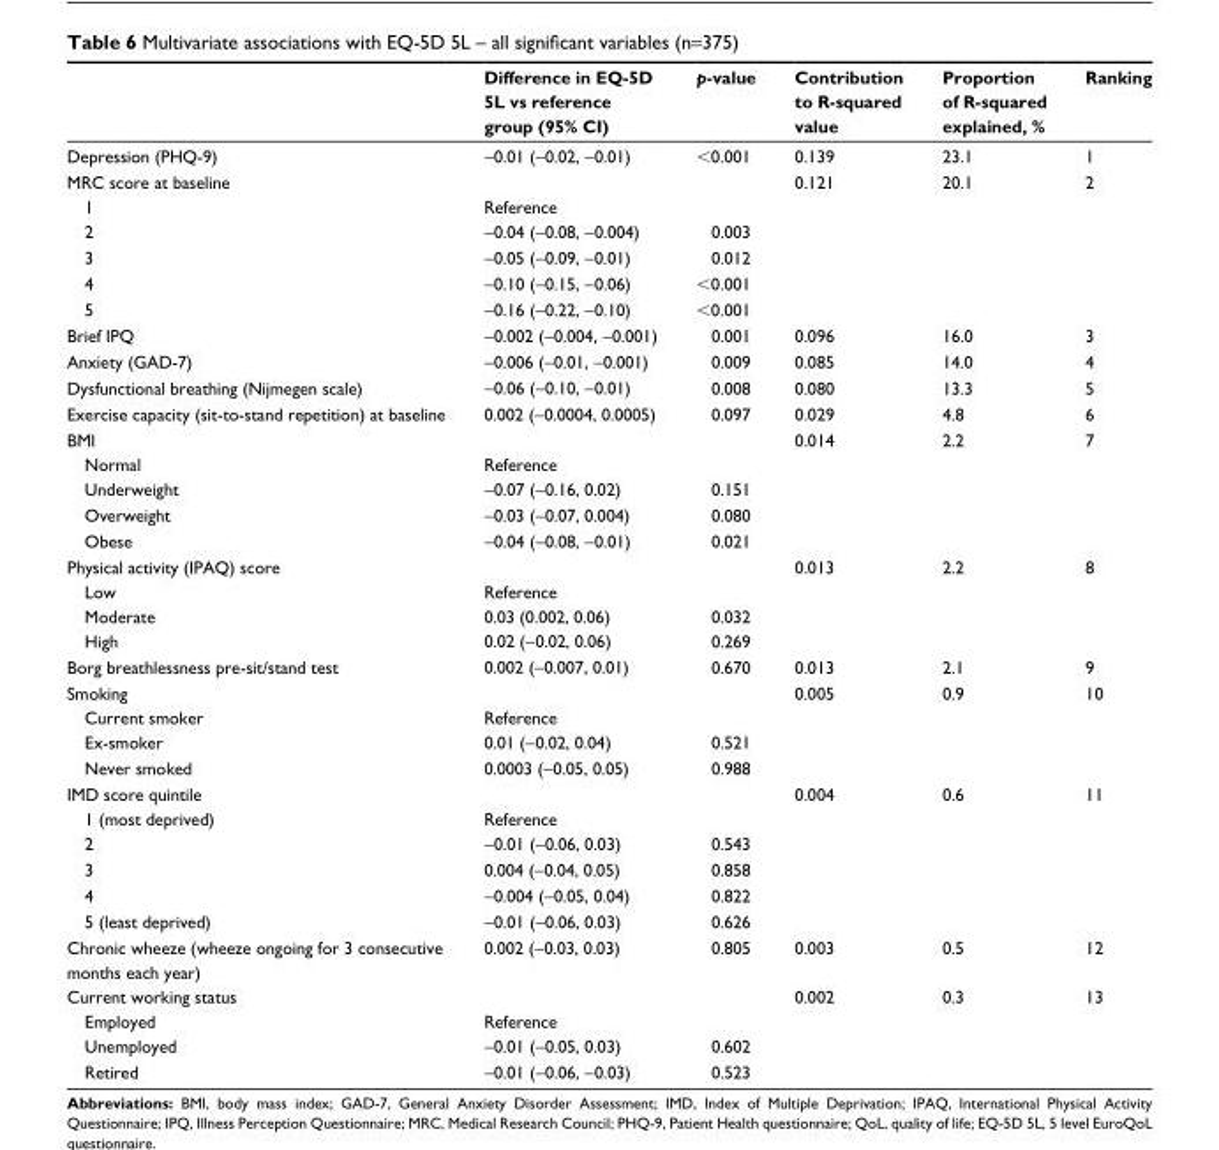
<table><thead><tr><td></td><td>Difference in EQ-5D 5L vs reference group (95% CI)</td><td>p-value</td><td>Contribution to R-squared value</td><td>Proportion of R-squared explained, %</td><td>Ranking</td></tr></thead><tbody><tr><td>Depression (PhQ-9)</td><td>−0.01 (−0.02, −0.01)</td><td>&lt;0.001</td><td>0.139</td><td>23.1</td><td>1</td></tr><tr><td>MrC score at baseline</td><td></td><td></td><td>0.121</td><td>20.1</td><td>2</td></tr><tr><td>1</td><td>reference</td><td></td><td></td><td></td><td></td></tr><tr><td>2</td><td>−0.04 (−0.08, −0.004)</td><td>0.003</td><td></td><td></td><td></td></tr><tr><td>3</td><td>−0.05 (−0.09, −0.01)</td><td>0.012</td><td></td><td></td><td></td></tr><tr><td>4</td><td>−0.10 (−0.15, −0.06)</td><td>&lt;0.001</td><td></td><td></td><td></td></tr><tr><td>5</td><td>−0.16 (−0.22, −0.10)</td><td>&lt;0.001</td><td></td><td></td><td></td></tr><tr><td>Brief IPQ</td><td>−0.002 (−0.004, −0.001)</td><td>0.001</td><td>0.096</td><td>16.0</td><td>3</td></tr><tr><td>anxiety (gaD-7)</td><td>−0.006 (−0.01, −0.001)</td><td>0.009</td><td>0.085</td><td>14.0</td><td>4</td></tr><tr><td>Dysfunctional breathing (nijmegen scale)</td><td>−0.06 (−0.10, −0.01)</td><td>0.008</td><td>0.080</td><td>13.3</td><td>5</td></tr><tr><td>exercise capacity (sit-to-stand repetition) at baseline</td><td>0.002 (−0.0004, 0.0005)</td><td>0.097</td><td>0.029</td><td>4.8</td><td>6</td></tr><tr><td>BMI</td><td></td><td></td><td>0.014</td><td>2.2</td><td>7</td></tr><tr><td>normal</td><td>reference</td><td></td><td></td><td></td><td></td></tr><tr><td>Underweight</td><td>−0.07 (−0.16, 0.02)</td><td>0.151</td><td></td><td></td><td></td></tr><tr><td>Overweight</td><td>−0.03 (−0.07, 0.004)</td><td>0.080</td><td></td><td></td><td></td></tr><tr><td>Obese</td><td>−0.04 (−0.08, −0.01)</td><td>0.021</td><td></td><td></td><td></td></tr><tr><td>Physical activity (IPaQ) score</td><td></td><td></td><td>0.013</td><td>2.2</td><td>8</td></tr><tr><td>low</td><td>reference</td><td></td><td></td><td></td><td></td></tr><tr><td>Moderate</td><td>0.03 (0.002, 0.06)</td><td>0.032</td><td></td><td></td><td></td></tr><tr><td>high</td><td>0.02 (−0.02, 0.06)</td><td>0.269</td><td></td><td></td><td></td></tr><tr><td>Borg breathlessness pre-sit/stand test</td><td>0.002 (−0.007, 0.01)</td><td>0.670</td><td>0.013</td><td>2.1</td><td>9</td></tr><tr><td>smoking</td><td></td><td></td><td>0.005</td><td>0.9</td><td>10</td></tr><tr><td>Current smoker</td><td>reference</td><td></td><td></td><td></td><td></td></tr><tr><td>ex-smoker</td><td>0.01 (−0.02, 0.04)</td><td>0.521</td><td></td><td></td><td></td></tr><tr><td>never smoked</td><td>0.0003 (−0.05, 0.05)</td><td>0.988</td><td></td><td></td><td></td></tr><tr><td>IMD score quintile</td><td></td><td></td><td>0.004</td><td>0.6</td><td>11</td></tr><tr><td>1 (most deprived)</td><td>reference</td><td></td><td></td><td></td><td></td></tr><tr><td>2</td><td>−0.01 (−0.06, 0.03)</td><td>0.543</td><td></td><td></td><td></td></tr><tr><td>3</td><td>0.004 (−0.04, 0.05)</td><td>0.858</td><td></td><td></td><td></td></tr><tr><td>4</td><td>−0.004 (−0.05, 0.04)</td><td>0.822</td><td></td><td></td><td></td></tr><tr><td>5 (least deprived)</td><td>−0.01 (−0.06, 0.03)</td><td>0.626</td><td></td><td></td><td></td></tr><tr><td>Chronic wheeze (wheeze ongoing for 3 consecutive months each year)</td><td>0.002 (−0.03, 0.03)</td><td>0.805</td><td>0.003</td><td>0.5</td><td>12</td></tr><tr><td>Current working status</td><td></td><td></td><td>0.002</td><td>0.3</td><td>13</td></tr><tr><td>employed</td><td>reference</td><td></td><td></td><td></td><td></td></tr><tr><td>Unemployed</td><td>−0.01 (−0.05, 0.03)</td><td>0.602</td><td></td><td></td><td></td></tr><tr><td>retired</td><td>−0.01 (−0.06, −0.03)</td><td>0.523</td><td></td><td></td><td></td></tr></tbody></table>